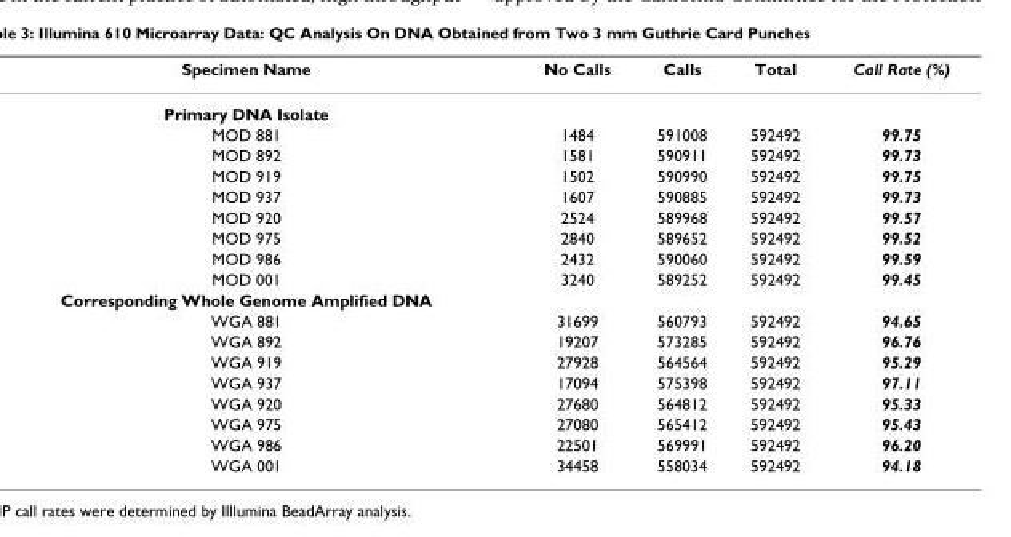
<table><thead><tr><td>Specimen Name</td><td>No Calls</td><td>Calls</td><td>Total</td><td>Call Rate (%)</td></tr></thead><tbody><tr><td colspan="5">Primary DNA Isolate</td></tr><tr><td>MOD 881</td><td>1484</td><td>591008</td><td>592492</td><td>99.75</td></tr><tr><td>MOD 892</td><td>1581</td><td>590911</td><td>592492</td><td>99.73</td></tr><tr><td>MOD 919</td><td>1502</td><td>590990</td><td>592492</td><td>99.75</td></tr><tr><td>MOD 937</td><td>1607</td><td>590885</td><td>592492</td><td>99.73</td></tr><tr><td>MOD 920</td><td>2524</td><td>589968</td><td>592492</td><td>99.57</td></tr><tr><td>MOD 975</td><td>2840</td><td>589652</td><td>592492</td><td>99.52</td></tr><tr><td>MOD 986</td><td>2432</td><td>590060</td><td>592492</td><td>99.59</td></tr><tr><td>MOD 001</td><td>3240</td><td>589252</td><td>592492</td><td>99.45</td></tr><tr><td colspan="5">Corresponding Whole Genome Amplified DNA</td></tr><tr><td>WGA 881</td><td>31699</td><td>560793</td><td>592492</td><td>94.65</td></tr><tr><td>WGA 892</td><td>19207</td><td>573285</td><td>592492</td><td>96.76</td></tr><tr><td>WGA 919</td><td>27928</td><td>564564</td><td>592492</td><td>95.29</td></tr><tr><td>WGA 937</td><td>17094</td><td>575398</td><td>592492</td><td>97.11</td></tr><tr><td>WGA 920</td><td>27680</td><td>564812</td><td>592492</td><td>95.33</td></tr><tr><td>WGA 975</td><td>27080</td><td>565412</td><td>592492</td><td>95.43</td></tr><tr><td>WGA 986</td><td>22501</td><td>569991</td><td>592492</td><td>96.20</td></tr><tr><td>WGA 001</td><td>34458</td><td>558034</td><td>592492</td><td>94.18</td></tr></tbody></table>